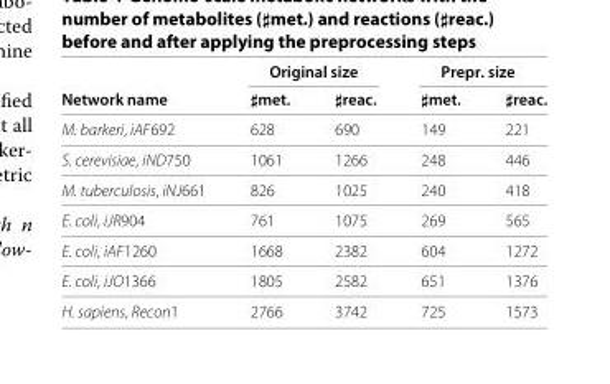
<table><thead><tr><td rowspan="2">Network name</td><td colspan="2">Original size</td><td colspan="2">Prepr. size</td></tr><tr><td>♯met.</td><td>♯reac.</td><td>♯met.</td><td>♯reac.</td></tr></thead><tbody><tr><td>M. barkeri, iAF692</td><td>628</td><td>690</td><td>149</td><td>221</td></tr><tr><td>S. cerevisiae, iND750</td><td>1061</td><td>1266</td><td>248</td><td>446</td></tr><tr><td>M. tuberculosis, iNJ661</td><td>826</td><td>1025</td><td>240</td><td>418</td></tr><tr><td>E. coli, iJR904</td><td>761</td><td>1075</td><td>269</td><td>565</td></tr><tr><td>E. coli, iAF1260</td><td>1668</td><td>2382</td><td>604</td><td>1272</td></tr><tr><td>E. coli, iJO1366</td><td>1805</td><td>2582</td><td>651</td><td>1376</td></tr><tr><td>H. sapiens, Recon1</td><td>2766</td><td>3742</td><td>725</td><td>1573</td></tr></tbody></table>